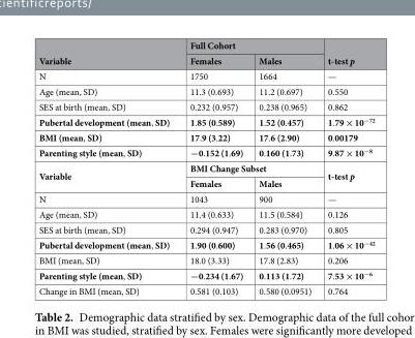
<table><thead><tr><td rowspan="2">Variable</td><td colspan="2">Full Cohort</td><td rowspan="2">t-test p</td></tr><tr><td>Females</td><td>Males</td></tr></thead><tbody><tr><td>N</td><td>1750</td><td>1664</td><td>—</td></tr><tr><td>Age (mean, SD)</td><td>11.3 (0.693)</td><td>11.2 (0.697)</td><td>0.550</td></tr><tr><td>SES at birth (mean, SD)</td><td>0.232 (0.957)</td><td>0.238 (0.965)</td><td>0.862</td></tr><tr><td>Pubertal development (mean, SD)</td><td>1.85 (0.589)</td><td>1.52 (0.457)</td><td>1.79 × 10<sup>−72</sup></td></tr><tr><td>BMI (mean, SD)</td><td>17.9 (3.22)</td><td>17.6 (2.90)</td><td>0.00179</td></tr><tr><td>Parenting style (mean, SD)</td><td>−0.152 (1.69)</td><td>0.160 (1.73)</td><td>9.87 × 10<sup>−8</sup></td></tr><tr><td rowspan="2">Variable</td><td colspan="2">BMI Change Subset</td><td rowspan="2">t-test p</td></tr><tr><td>Females</td><td>Males</td></tr><tr><td>N</td><td>1043</td><td>900</td><td>—</td></tr><tr><td>Age (mean, SD)</td><td>11.4 (0.633)</td><td>11.5 (0.584)</td><td>0.126</td></tr><tr><td>SES at birth (mean, SD)</td><td>0.294 (0.947)</td><td>0.283 (0.970)</td><td>0.805</td></tr><tr><td>Pubertal development (mean, SD)</td><td>1.90 (0.600)</td><td>1.56 (0.465)</td><td>1.06 × 10<sup>−42</sup></td></tr><tr><td>BMI (mean, SD)</td><td>18.0 (3.33)</td><td>17.8 (2.83)</td><td>0.206</td></tr><tr><td>Parenting style (mean, SD)</td><td>−0.234 (1.67)</td><td>0.113 (1.72)</td><td>7.53 × 10<sup>−6</sup></td></tr><tr><td>Change in BMI (mean, SD)</td><td>0.581 (0.103)</td><td>0.580 (0.0951)</td><td>0.764</td></tr></tbody></table>